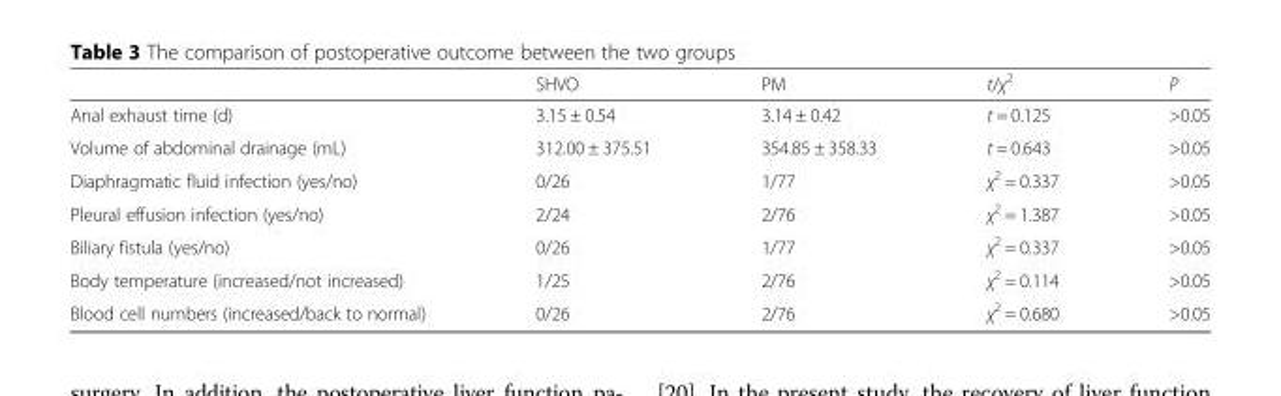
<table><thead><tr><td></td><td>SHVO</td><td>PM</td><td>t/χ<sup>2</sup></td><td>P</td></tr></thead><tbody><tr><td>Anal exhaust time (d)</td><td>3.15 ± 0.54</td><td>3.14 ± 0.42</td><td>t = 0.125</td><td>&gt;0.05</td></tr><tr><td>Volume of abdominal drainage (mL)</td><td>312.00 ± 375.51</td><td>354.85 ± 358.33</td><td>t = 0.643</td><td>&gt;0.05</td></tr><tr><td>Diaphragmatic fluid infection (yes/no)</td><td>0/26</td><td>1/77</td><td>χ<sup>2</sup> = 0.337</td><td>&gt;0.05</td></tr><tr><td>Pleural effusion infection (yes/no)</td><td>2/24</td><td>2/76</td><td>χ<sup>2</sup> = 1.387</td><td>&gt;0.05</td></tr><tr><td>Biliary fistula (yes/no)</td><td>0/26</td><td>1/77</td><td>χ<sup>2</sup> = 0.337</td><td>&gt;0.05</td></tr><tr><td>Body temperature (increased/not increased)</td><td>1/25</td><td>2/76</td><td>χ<sup>2</sup> = 0.114</td><td>&gt;0.05</td></tr><tr><td>Blood cell numbers (increased/back to normal)</td><td>0/26</td><td>2/76</td><td>χ<sup>2</sup> = 0.680</td><td>&gt;0.05</td></tr></tbody></table>